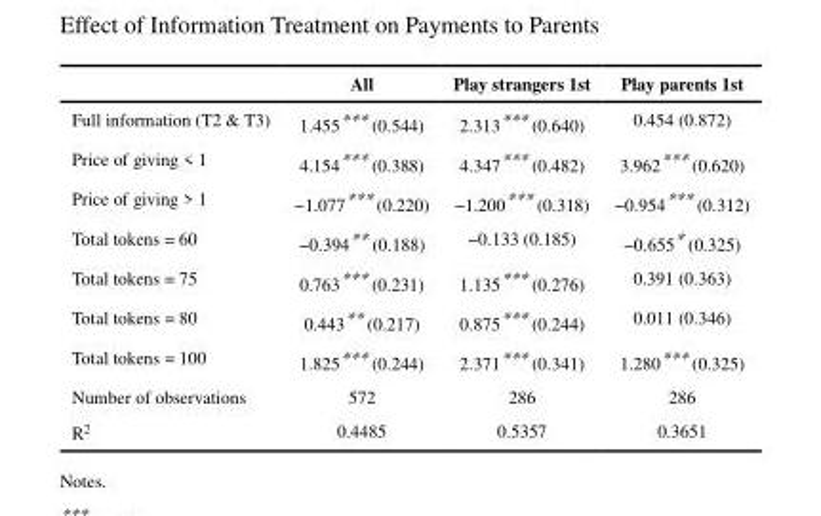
<table><thead><tr><td></td><td>All</td><td>Play strangers 1st</td><td>Play parents 1st</td></tr></thead><tbody><tr><td>Full information (T2 &amp; T3)</td><td>1.455*** (0.544)</td><td>2.313*** (0.640)</td><td>0.454 (0.872)</td></tr><tr><td>Price of giving &lt; 1</td><td>4.154*** (0.388)</td><td>4.347*** (0.482)</td><td>3.962*** (0.620)</td></tr><tr><td>Price of giving &gt; 1</td><td>−1.077*** (0.220)</td><td>−1.200*** (0.318)</td><td>−0.954*** (0.312)</td></tr><tr><td>Total tokens = 60</td><td>−0.394** (0.188)</td><td>−0.133 (0.185)</td><td>−0.655* (0.325)</td></tr><tr><td>Total tokens = 75</td><td>0.763*** (0.231)</td><td>1.135*** (0.276)</td><td>0.391 (0.363)</td></tr><tr><td>Total tokens = 80</td><td>0.443** (0.217)</td><td>0.875*** (0.244)</td><td>0.011 (0.346)</td></tr><tr><td>Total tokens = 100</td><td>1.825*** (0.244)</td><td>2.371*** (0.341)</td><td>1.280*** (0.325)</td></tr><tr><td>Number of observations</td><td>572</td><td>286</td><td>286</td></tr><tr><td>R<sup>2</sup></td><td>0.4485</td><td>0.5357</td><td>0.3651</td></tr></tbody></table>